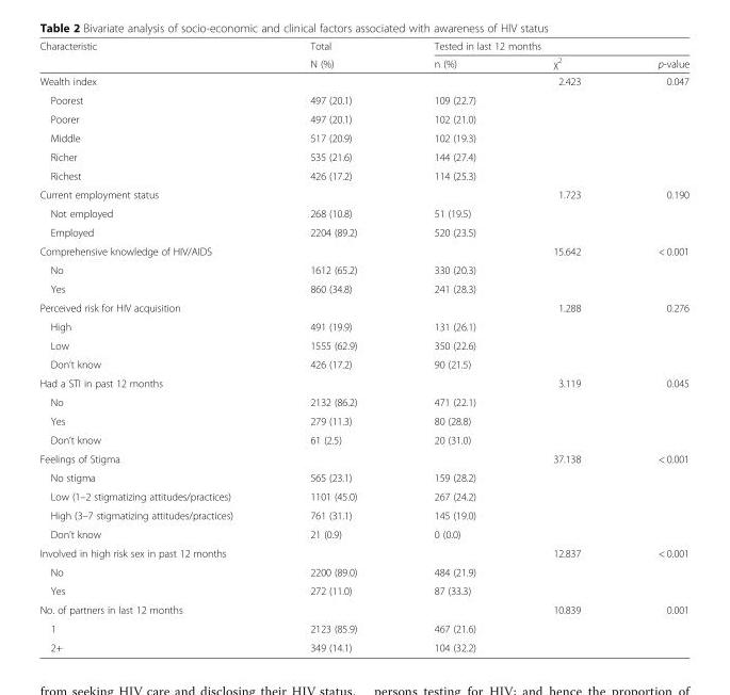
<table><thead><tr><td rowspan="2">Characteristic</td><td rowspan="2">Total N (%)</td><td colspan="3">Tested in last 12 months</td></tr><tr><td>n (%)</td><td>χ<sup>2</sup></td><td>p-value</td></tr></thead><tbody><tr><td>Wealth index</td><td></td><td></td><td>2.423</td><td>0.047</td></tr><tr><td>Poorest</td><td>497 (20.1)</td><td>109 (22.7)</td><td></td><td></td></tr><tr><td>Poorer</td><td>497 (20.1)</td><td>102 (21.0)</td><td></td><td></td></tr><tr><td>Middle</td><td>517 (20.9)</td><td>102 (19.3)</td><td></td><td></td></tr><tr><td>Richer</td><td>535 (21.6)</td><td>144 (27.4)</td><td></td><td></td></tr><tr><td>Richest</td><td>426 (17.2)</td><td>114 (25.3)</td><td></td><td></td></tr><tr><td>Current employment status</td><td></td><td></td><td>1.723</td><td>0.190</td></tr><tr><td>Not employed</td><td>268 (10.8)</td><td>51 (19.5)</td><td></td><td></td></tr><tr><td>Employed</td><td>2204 (89.2)</td><td>520 (23.5)</td><td></td><td></td></tr><tr><td>Comprehensive knowledge of HIV/AIDS</td><td></td><td></td><td>15.642</td><td>&lt; 0.001</td></tr><tr><td>No</td><td>1612 (65.2)</td><td>330 (20.3)</td><td></td><td></td></tr><tr><td>Yes</td><td>860 (34.8)</td><td>241 (28.3)</td><td></td><td></td></tr><tr><td>Perceived risk for HIV acquisition</td><td></td><td></td><td>1.288</td><td>0.276</td></tr><tr><td>High</td><td>491 (19.9)</td><td>131 (26.1)</td><td></td><td></td></tr><tr><td>Low</td><td>1555 (62.9)</td><td>350 (22.6)</td><td></td><td></td></tr><tr><td>Don’t know</td><td>426 (17.2)</td><td>90 (21.5)</td><td></td><td></td></tr><tr><td>Had a STI in past 12 months</td><td></td><td></td><td>3.119</td><td>0.045</td></tr><tr><td>No</td><td>2132 (86.2)</td><td>471 (22.1)</td><td></td><td></td></tr><tr><td>Yes</td><td>279 (11.3)</td><td>80 (28.8)</td><td></td><td></td></tr><tr><td>Don’t know</td><td>61 (2.5)</td><td>20 (31.0)</td><td></td><td></td></tr><tr><td>Feelings of Stigma</td><td></td><td></td><td>37.138</td><td>&lt; 0.001</td></tr><tr><td>No stigma</td><td>565 (23.1)</td><td>159 (28.2)</td><td></td><td></td></tr><tr><td>Low (1–2 stigmatizing attitudes/practices)</td><td>1101 (45.0)</td><td>267 (24.2)</td><td></td><td></td></tr><tr><td>High (3–7 stigmatizing attitudes/practices)</td><td>761 (31.1)</td><td>145 (19.0)</td><td></td><td></td></tr><tr><td>Don’t know</td><td>21 (0.9)</td><td>0 (0.0)</td><td></td><td></td></tr><tr><td>Involved in high risk sex in past 12 months</td><td></td><td></td><td>12.837</td><td>&lt; 0.001</td></tr><tr><td>No</td><td>2200 (89.0)</td><td>484 (21.9)</td><td></td><td></td></tr><tr><td>Yes</td><td>272 (11.0)</td><td>87 (33.3)</td><td></td><td></td></tr><tr><td>No. of partners in last 12 months</td><td></td><td></td><td>10.839</td><td>0.001</td></tr><tr><td>1</td><td>2123 (85.9)</td><td>467 (21.6)</td><td></td><td></td></tr><tr><td>2+</td><td>349 (14.1)</td><td>104 (32.2)</td><td></td><td></td></tr></tbody></table>